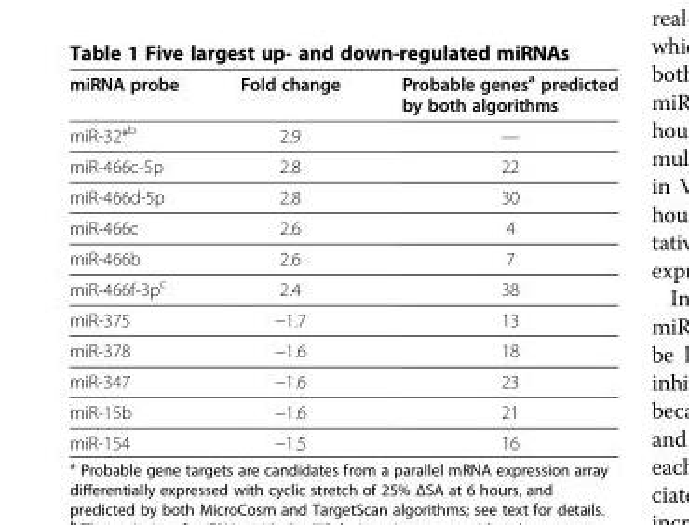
<table><thead><tr><td>miRNA probe</td><td>Fold change</td><td>Probable genes<sup>a</sup> predicted by both algorithms</td></tr></thead><tbody><tr><td>miR-32*<sup>b</sup></td><td>2.9</td><td>—</td></tr><tr><td>miR-466c-5p</td><td>2.8</td><td>22</td></tr><tr><td>miR-466d-5p</td><td>2.8</td><td>30</td></tr><tr><td>miR-466c</td><td>2.6</td><td>4</td></tr><tr><td>miR-466b</td><td>2.6</td><td>7</td></tr><tr><td>miR-466f-3p<sup>c</sup></td><td>2.4</td><td>38</td></tr><tr><td>miR-375</td><td>−1.7</td><td>13</td></tr><tr><td>miR-378</td><td>−1.6</td><td>18</td></tr><tr><td>miR-347</td><td>−1.6</td><td>23</td></tr><tr><td>miR-15b</td><td>−1.6</td><td>21</td></tr><tr><td>miR-154</td><td>−1.5</td><td>16</td></tr></tbody></table>